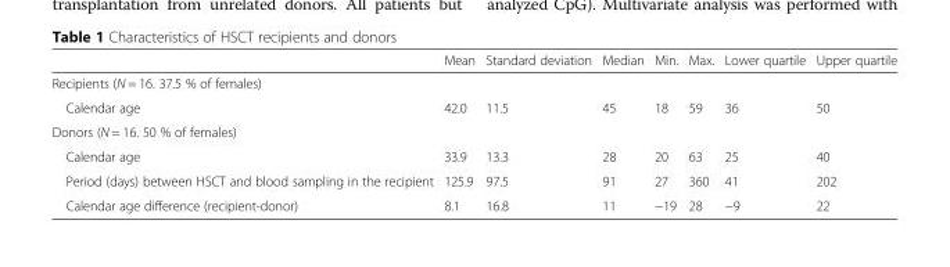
<table><thead><tr><td></td><td>Mean</td><td>Standard deviation</td><td>Median</td><td>Min.</td><td>Max.</td><td>Lower quartile</td><td>Upper quartile</td></tr></thead><tbody><tr><td colspan="8">Recipients (N = 16. 37.5 % of females)</td></tr><tr><td>Calendar age</td><td>42.0</td><td>11.5</td><td>45</td><td>18</td><td>59</td><td>36</td><td>50</td></tr><tr><td colspan="8">Donors (N = 16. 50 % of females)</td></tr><tr><td>Calendar age</td><td>33.9</td><td>13.3</td><td>28</td><td>20</td><td>63</td><td>25</td><td>40</td></tr><tr><td>Period (days) between HSCT and blood sampling in the recipient</td><td>125.9</td><td>97.5</td><td>91</td><td>27</td><td>360</td><td>41</td><td>202</td></tr><tr><td>Calendar age difference (recipient-donor)</td><td>8.1</td><td>16.8</td><td>11</td><td>−19</td><td>28</td><td>−9</td><td>22</td></tr></tbody></table>